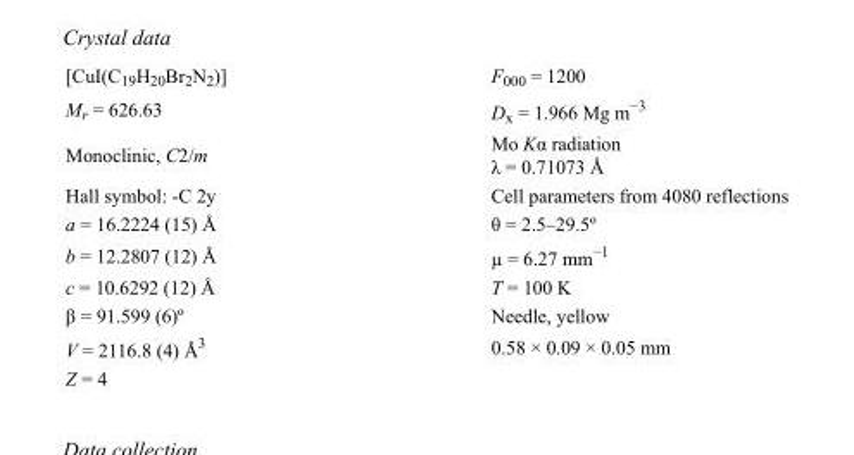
<table><tbody><tr><td>[CuI(C<sub>19</sub>H<sub>20</sub>Br<sub>2</sub>N<sub>2</sub>)]</td><td>F000 = 1200</td></tr><tr><td>M<sub>r</sub> = 626.63</td><td>D<sub>x</sub> = 1.966 Mg m<sup>−3</sup></td></tr><tr><td>Monoclinic, C2/m</td><td>Mo Kα radiation λ = 0.71073 Å</td></tr><tr><td>Hall symbol: -C 2y</td><td>Cell parameters from 4080 reflections</td></tr><tr><td>a = 16.2224 (15) Å</td><td>θ = 2.5–29.5º</td></tr><tr><td>b = 12.2807 (12) Å</td><td>µ = 6.27 mm<sup>−1</sup></td></tr><tr><td>c = 10.6292 (12) Å</td><td>T = 100 K</td></tr><tr><td>β = 91.599 (6)º</td><td>Needle, yellow</td></tr><tr><td>V = 2116.8 (4) Å<sup>3</sup></td><td>0.58 × 0.09 × 0.05 mm</td></tr><tr><td>Z = 4</td><td></td></tr></tbody></table>